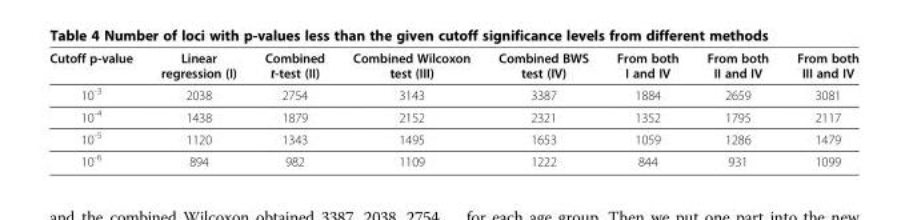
<table><thead><tr><td>Cutoff p-value</td><td>Linear regression (I)</td><td>Combined t-test (II)</td><td>Combined Wilcoxon test (III)</td><td>Combined BWS test (IV)</td><td>From both I and IV</td><td>From both II and IV</td><td>From both III and IV</td></tr></thead><tbody><tr><td>10<sup>-3</sup></td><td>2038</td><td>2754</td><td>3143</td><td>3387</td><td>1884</td><td>2659</td><td>3081</td></tr><tr><td>10<sup>-4</sup></td><td>1438</td><td>1879</td><td>2152</td><td>2321</td><td>1352</td><td>1795</td><td>2117</td></tr><tr><td>10<sup>-5</sup></td><td>1120</td><td>1343</td><td>1495</td><td>1653</td><td>1059</td><td>1286</td><td>1479</td></tr><tr><td>10<sup>-6</sup></td><td>894</td><td>982</td><td>1109</td><td>1222</td><td>844</td><td>931</td><td>1099</td></tr></tbody></table>